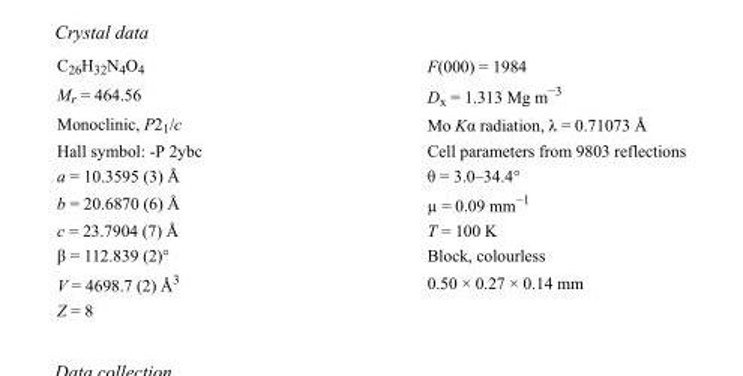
<table><tbody><tr><td>C<sub>26</sub>H<sub>32</sub>N<sub>4</sub>O<sub>4</sub></td><td>F(000) = 1984</td></tr><tr><td>M<sub>r</sub> = 464.56</td><td>D<sub>x</sub> = 1.313 Mg m<sup>−3</sup></td></tr><tr><td>Monoclinic, P2<sub>1</sub>/c</td><td>Mo Kα radiation, λ = 0.71073 Å</td></tr><tr><td>Hall symbol: -P 2ybc</td><td>Cell parameters from 9803 reflections</td></tr><tr><td>a = 10.3595 (3) Å</td><td>θ = 3.0–34.4°</td></tr><tr><td>b = 20.6870 (6) Å</td><td>µ = 0.09 mm<sup>−1</sup></td></tr><tr><td>c = 23.7904 (7) Å</td><td>T = 100 K</td></tr><tr><td>β = 112.839 (2)°</td><td>Block, colourless</td></tr><tr><td>V = 4698.7 (2) Å<sup>3</sup></td><td>0.50 × 0.27 × 0.14 mm</td></tr><tr><td>Z = 8</td><td></td></tr></tbody></table>